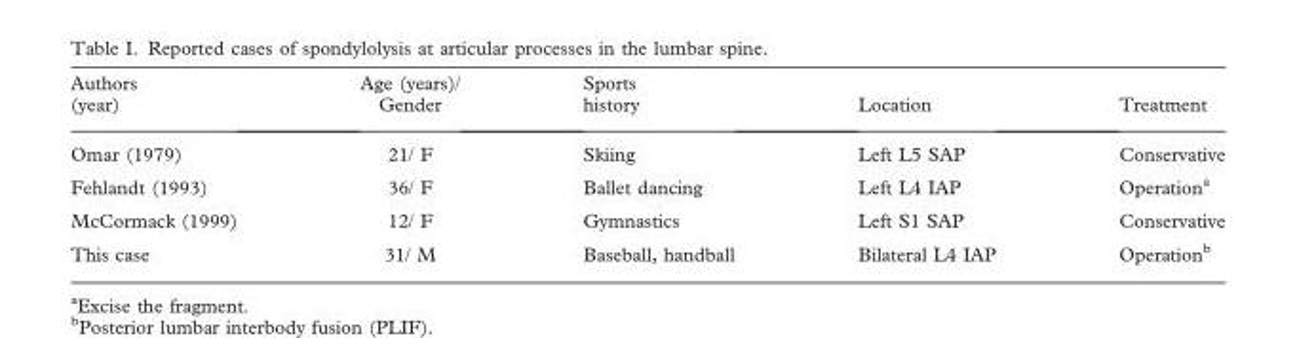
<table><thead><tr><td>Authors (year)</td><td>Age (years)/ Gender</td><td>Sports history</td><td>Location</td><td>Treatment</td></tr></thead><tbody><tr><td>Omar (1979)</td><td>21/ F</td><td>Skiing</td><td>Left L5 SAP</td><td>Conservative</td></tr><tr><td>Fehlandt (1993)</td><td>36/ F</td><td>Ballet dancing</td><td>Left L4 IAP</td><td>Operation<sup>a</sup></td></tr><tr><td>McCormack (1999)</td><td>12/ F</td><td>Gymnastics</td><td>Left S1 SAP</td><td>Conservative</td></tr><tr><td>This case</td><td>31/ M</td><td>Baseball, handball</td><td>Bilateral L4 IAP</td><td>Operation<sup>b</sup></td></tr></tbody></table>